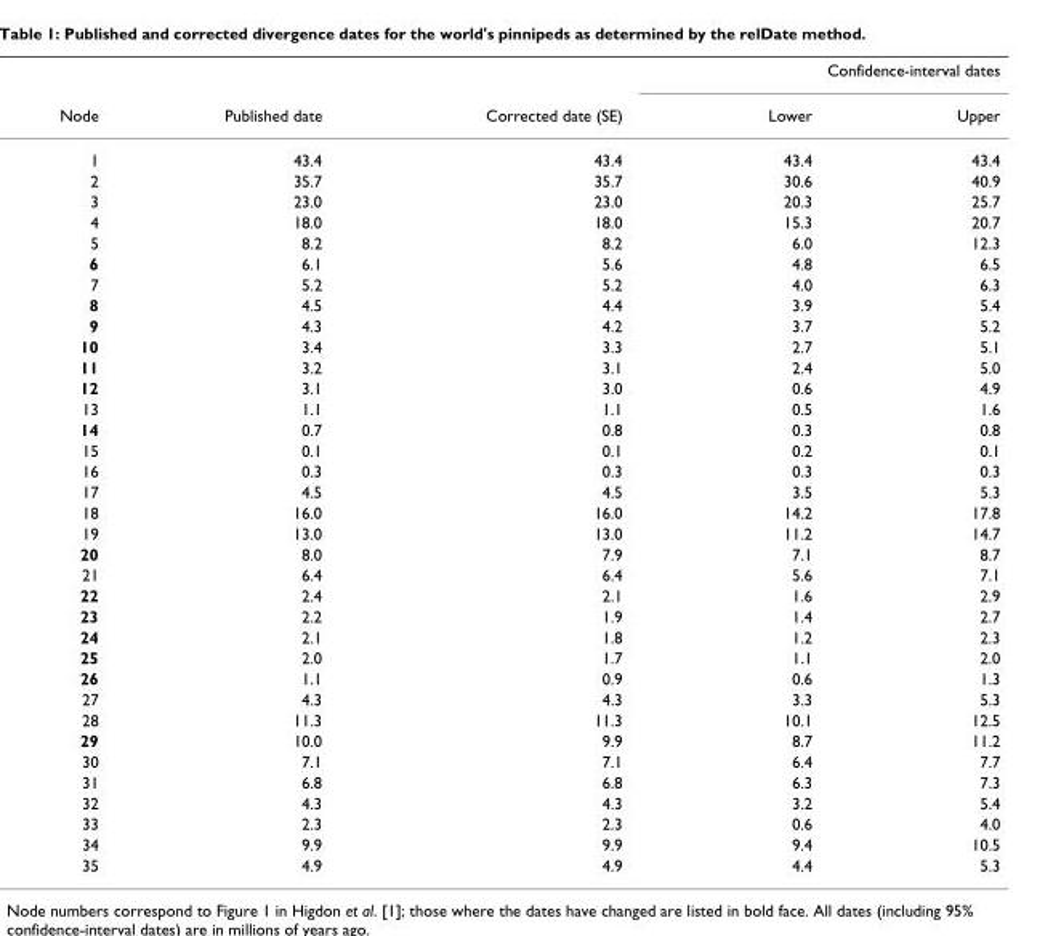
<table><thead><tr><td rowspan="2">Node</td><td rowspan="2">Published date</td><td rowspan="2">Corrected date (SE)</td><td colspan="2">Confidence-interval dates</td></tr><tr><td>Lower</td><td>Upper</td></tr></thead><tbody><tr><td>1</td><td>43.4</td><td>43.4</td><td>43.4</td><td>43.4</td></tr><tr><td>2</td><td>35.7</td><td>35.7</td><td>30.6</td><td>40.9</td></tr><tr><td>3</td><td>23.0</td><td>23.0</td><td>20.3</td><td>25.7</td></tr><tr><td>4</td><td>18.0</td><td>18.0</td><td>15.3</td><td>20.7</td></tr><tr><td>5</td><td>8.2</td><td>8.2</td><td>6.0</td><td>12.3</td></tr><tr><td>6</td><td>6.1</td><td>5.6</td><td>4.8</td><td>6.5</td></tr><tr><td>7</td><td>5.2</td><td>5.2</td><td>4.0</td><td>6.3</td></tr><tr><td>8</td><td>4.5</td><td>4.4</td><td>3.9</td><td>5.4</td></tr><tr><td>9</td><td>4.3</td><td>4.2</td><td>3.7</td><td>5.2</td></tr><tr><td>10</td><td>3.4</td><td>3.3</td><td>2.7</td><td>5.1</td></tr><tr><td>11</td><td>3.2</td><td>3.1</td><td>2.4</td><td>5.0</td></tr><tr><td>12</td><td>3.1</td><td>3.0</td><td>0.6</td><td>4.9</td></tr><tr><td>13</td><td>1.1</td><td>1.1</td><td>0.5</td><td>1.6</td></tr><tr><td>14</td><td>0.7</td><td>0.8</td><td>0.3</td><td>0.8</td></tr><tr><td>15</td><td>0.1</td><td>0.1</td><td>0.2</td><td>0.1</td></tr><tr><td>16</td><td>0.3</td><td>0.3</td><td>0.3</td><td>0.3</td></tr><tr><td>17</td><td>4.5</td><td>4.5</td><td>3.5</td><td>5.3</td></tr><tr><td>18</td><td>16.0</td><td>16.0</td><td>14.2</td><td>17.8</td></tr><tr><td>19</td><td>13.0</td><td>13.0</td><td>11.2</td><td>14.7</td></tr><tr><td>20</td><td>8.0</td><td>7.9</td><td>7.1</td><td>8.7</td></tr><tr><td>21</td><td>6.4</td><td>6.4</td><td>5.6</td><td>7.1</td></tr><tr><td>22</td><td>2.4</td><td>2.1</td><td>1.6</td><td>2.9</td></tr><tr><td>23</td><td>2.2</td><td>1.9</td><td>1.4</td><td>2.7</td></tr><tr><td>24</td><td>2.1</td><td>1.8</td><td>1.2</td><td>2.3</td></tr><tr><td>25</td><td>2.0</td><td>1.7</td><td>1.1</td><td>2.0</td></tr><tr><td>26</td><td>1.1</td><td>0.9</td><td>0.6</td><td>1.3</td></tr><tr><td>27</td><td>4.3</td><td>4.3</td><td>3.3</td><td>5.3</td></tr><tr><td>28</td><td>11.3</td><td>11.3</td><td>10.1</td><td>12.5</td></tr><tr><td>29</td><td>10.0</td><td>9.9</td><td>8.7</td><td>11.2</td></tr><tr><td>30</td><td>7.1</td><td>7.1</td><td>6.4</td><td>7.7</td></tr><tr><td>31</td><td>6.8</td><td>6.8</td><td>6.3</td><td>7.3</td></tr><tr><td>32</td><td>4.3</td><td>4.3</td><td>3.2</td><td>5.4</td></tr><tr><td>33</td><td>2.3</td><td>2.3</td><td>0.6</td><td>4.0</td></tr><tr><td>34</td><td>9.9</td><td>9.9</td><td>9.4</td><td>10.5</td></tr><tr><td>35</td><td>4.9</td><td>4.9</td><td>4.4</td><td>5.3</td></tr></tbody></table>